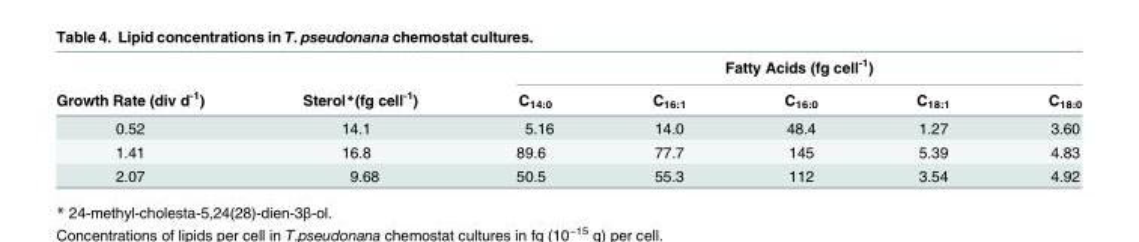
<table><thead><tr><td rowspan="2">Growth Rate (div d<sup>-1</sup>)</td><td rowspan="2">Sterol*(fg cell<sup>-1</sup>)</td><td colspan="5">Fatty Acids (fg cell<sup>-1</sup>)</td></tr><tr><td>C<sub>14:0</sub></td><td>C<sub>16:1</sub></td><td>C<sub>16:0</sub></td><td>C<sub>18:1</sub></td><td>C<sub>18:0</sub></td></tr></thead><tbody><tr><td>0.52</td><td>14.1</td><td>5.16</td><td>14.0</td><td>48.4</td><td>1.27</td><td>3.60</td></tr><tr><td>1.41</td><td>16.8</td><td>89.6</td><td>77.7</td><td>145</td><td>5.39</td><td>4.83</td></tr><tr><td>2.07</td><td>9.68</td><td>50.5</td><td>55.3</td><td>112</td><td>3.54</td><td>4.92</td></tr></tbody></table>